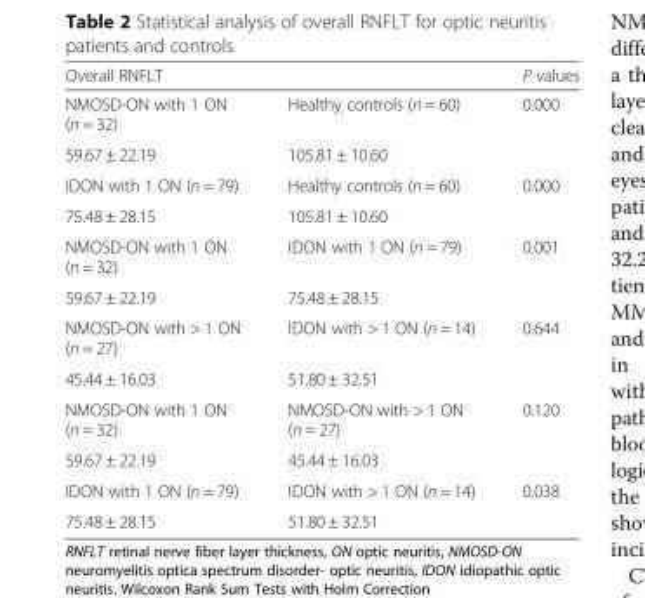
<table><thead><tr><td colspan="2">Overall RNFLT</td><td rowspan="2">P values 0.000</td></tr><tr><td>NMOSD-ON with 1 ON (n = 32)</td><td>Healthy controls (n = 60)</td></tr></thead><tbody><tr><td>59.67 ± 22.19</td><td>105.81 ± 10.60</td><td></td></tr><tr><td>IDON with 1 ON (n = 79)</td><td>Healthy controls (n = 60)</td><td>0.000</td></tr><tr><td>75.48 ± 28.15</td><td>105.81 ± 10.60</td><td></td></tr><tr><td>NMOSD-ON with 1 ON (n = 32)</td><td>IDON with 1 ON (n = 79)</td><td>0.001</td></tr><tr><td>59.67 ± 22.19</td><td>75.48 ± 28.15</td><td></td></tr><tr><td>NMOSD-ON with &gt; 1 ON (n = 27)</td><td>IDON with &gt; 1 ON (n = 14)</td><td>0.644</td></tr><tr><td>45.44 ± 16.03</td><td>51.80 ± 32.51</td><td></td></tr><tr><td>NMOSD-ON with 1 ON (n = 32)</td><td>NMOSD-ON with &gt; 1 ON (n = 27)</td><td>0.120</td></tr><tr><td>59.67 ± 22.19</td><td>45.44 ± 16.03</td><td></td></tr><tr><td>IDON with 1 ON (n = 79)</td><td>IDON with &gt; 1 ON (n = 14)</td><td>0.038</td></tr><tr><td>75.48 ± 28.15</td><td>51.80 ± 32.51</td><td></td></tr></tbody></table>